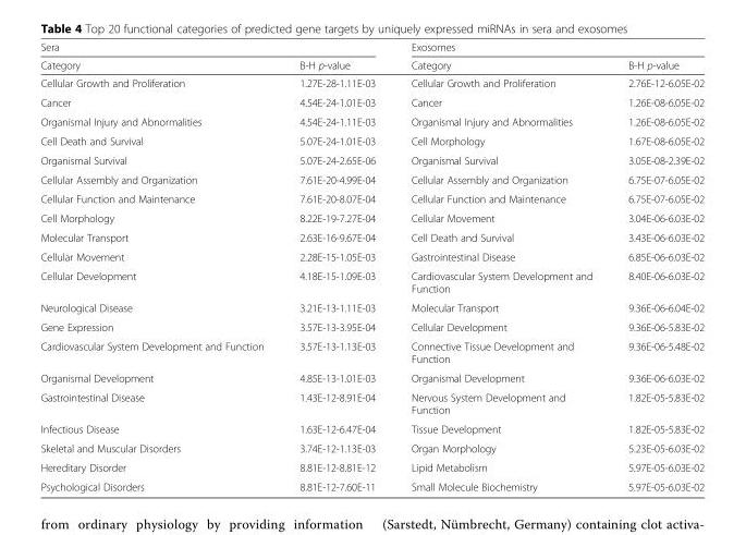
<table><thead><tr><td colspan="2">Sera</td><td colspan="2">Exosomes</td></tr><tr><td>Category</td><td>B-H p-value</td><td>Category</td><td>B-H p-value</td></tr></thead><tbody><tr><td>Cellular Growth and Proliferation</td><td>1.27E-28-1.11E-03</td><td>Cellular Growth and Proliferation</td><td>2.76E-12-6.05E-02</td></tr><tr><td>Cancer</td><td>4.54E-24-1.01E-03</td><td>Cancer</td><td>1.26E-08-6.05E-02</td></tr><tr><td>Organismal Injury and Abnormalities</td><td>4.54E-24-1.11E-03</td><td>Organismal Injury and Abnormalities</td><td>1.26E-08-6.05E-02</td></tr><tr><td>Cell Death and Survival</td><td>5.07E-24-1.01E-03</td><td>Cell Morphology</td><td>1.67E-08-6.05E-02</td></tr><tr><td>Organismal Survival</td><td>5.07E-24-2.65E-06</td><td>Organismal Survival</td><td>3.05E-08-2.39E-02</td></tr><tr><td>Cellular Assembly and Organization</td><td>7.61E-20-4.99E-04</td><td>Cellular Assembly and Organization</td><td>6.75E-07-6.05E-02</td></tr><tr><td>Cellular Function and Maintenance</td><td>7.61E-20-8.07E-04</td><td>Cellular Function and Maintenance</td><td>6.75E-07-6.05E-02</td></tr><tr><td>Cell Morphology</td><td>8.22E-19-7.27E-04</td><td>Cellular Movement</td><td>3.04E-06-6.03E-02</td></tr><tr><td>Molecular Transport</td><td>2.63E-16-9.67E-04</td><td>Cell Death and Survival</td><td>3.43E-06-6.03E-02</td></tr><tr><td>Cellular Movement</td><td>2.28E-15-1.05E-03</td><td>Gastrointestinal Disease</td><td>6.85E-06-6.03E-02</td></tr><tr><td>Cellular Development</td><td>4.18E-15-1.09E-03</td><td>Cardiovascular System Development and Function</td><td>8.40E-06-6.03E-02</td></tr><tr><td>Neurological Disease</td><td>3.21E-13-1.11E-03</td><td>Molecular Transport</td><td>9.36E-06-6.04E-02</td></tr><tr><td>Gene Expression</td><td>3.57E-13-3.95E-04</td><td>Cellular Development</td><td>9.36E-06-5.83E-02</td></tr><tr><td>Cardiovascular System Development and Function</td><td>3.57E-13-1.13E-03</td><td>Connective Tissue Development and Function</td><td>9.36E-06-5.48E-02</td></tr><tr><td>Organismal Development</td><td>4.85E-13-1.01E-03</td><td>Organismal Development</td><td>9.36E-06-6.03E-02</td></tr><tr><td>Gastrointestinal Disease</td><td>1.43E-12-8.91E-04</td><td>Nervous System Development and Function</td><td>1.82E-05-5.83E-02</td></tr><tr><td>Infectious Disease</td><td>1.63E-12-6.47E-04</td><td>Tissue Development</td><td>1.82E-05-5.83E-02</td></tr><tr><td>Skeletal and Muscular Disorders</td><td>3.74E-12-1.13E-03</td><td>Organ Morphology</td><td>5.23E-05-6.03E-02</td></tr><tr><td>Hereditary Disorder</td><td>8.81E-12-8.81E-12</td><td>Lipid Metabolism</td><td>5.97E-05-6.03E-02</td></tr><tr><td>Psychological Disorders</td><td>8.81E-12-7.60E-11</td><td>Small Molecule Biochemistry</td><td>5.97E-05-6.03E-02</td></tr></tbody></table>